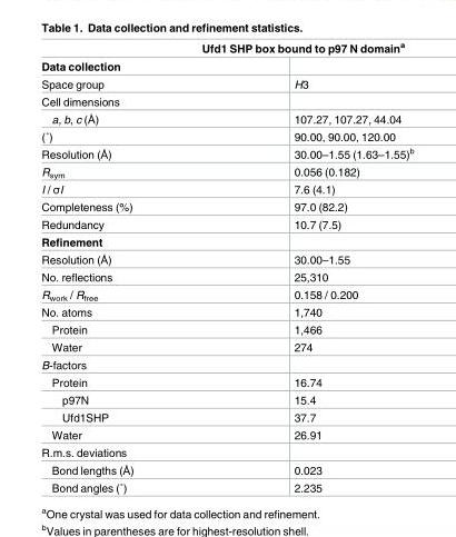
<table><thead><tr><td colspan="2">Ufd1 SHP box bound to p97 N domain<sup>a</sup></td></tr><tr><td>Data collection</td><td></td></tr></thead><tbody><tr><td>Space group</td><td>H3</td></tr><tr><td colspan="2">Cell dimensions</td></tr><tr><td>a, b, c (Å)</td><td>107.27, 107.27, 44.04</td></tr><tr><td>(˚)</td><td>90.00, 90.00, 120.00</td></tr><tr><td>Resolution (Å)</td><td>30.00–1.55 (1.63–1.55)<sup>b</sup></td></tr><tr><td>R<sub>sym</sub></td><td>0.056 (0.182)</td></tr><tr><td>I / σI</td><td>7.6 (4.1)</td></tr><tr><td>Completeness (%)</td><td>97.0 (82.2)</td></tr><tr><td>Redundancy</td><td>10.7 (7.5)</td></tr><tr><td colspan="2">Refinement</td></tr><tr><td>Resolution (Å)</td><td>30.00–1.55</td></tr><tr><td>No. reflections</td><td>25,310</td></tr><tr><td>R<sub>work</sub> / R<sub>free</sub></td><td>0.158 / 0.200</td></tr><tr><td>No. atoms</td><td>1,740</td></tr><tr><td>Protein</td><td>1,466</td></tr><tr><td>Water</td><td>274</td></tr><tr><td colspan="2">B-factors</td></tr><tr><td>Protein</td><td>16.74</td></tr><tr><td>p97N</td><td>15.4</td></tr><tr><td>Ufd1SHP</td><td>37.7</td></tr><tr><td>Water</td><td>26.91</td></tr><tr><td colspan="2">R.m.s. deviations</td></tr><tr><td>Bond lengths (Å)</td><td>0.023</td></tr><tr><td>Bond angles (˚)</td><td>2.235</td></tr></tbody></table>